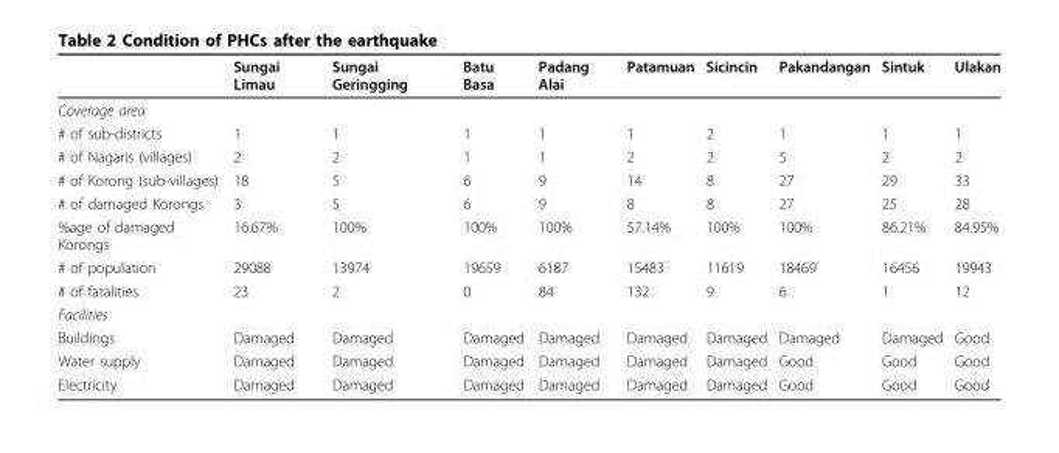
<table><thead><tr><td></td><td>Sungai Limau</td><td>Sungai Geringging</td><td>Batu Basa</td><td>Padang Alai</td><td>Patamuan</td><td>Sicincin</td><td>Pakandangan</td><td>Sintuk</td><td>Ulakan</td></tr></thead><tbody><tr><td colspan="10">Coverage area</td></tr><tr><td># of sub-districts</td><td>1</td><td>1</td><td>1</td><td>1</td><td>1</td><td>2</td><td>1</td><td>1</td><td>1</td></tr><tr><td># of Nagaris (villages)</td><td>2</td><td>2</td><td>1</td><td>1</td><td>2</td><td>2</td><td>5</td><td>2</td><td>2</td></tr><tr><td># of Korong (sub-villages)</td><td>18</td><td>5</td><td>6</td><td>9</td><td>14</td><td>8</td><td>27</td><td>29</td><td>33</td></tr><tr><td># of damaged Korongs</td><td>3</td><td>5</td><td>6</td><td>9</td><td>8</td><td>8</td><td>27</td><td>25</td><td>28</td></tr><tr><td>%age of damaged Korongs</td><td>16.67%</td><td>100%</td><td>100%</td><td>100%</td><td>57.14%</td><td>100%</td><td>100%</td><td>86.21%</td><td>84.95%</td></tr><tr><td># of population</td><td>29088</td><td>13974</td><td>19659</td><td>6187</td><td>15483</td><td>11619</td><td>18469</td><td>16456</td><td>19943</td></tr><tr><td># of fatalities</td><td>23</td><td>2</td><td>0</td><td>84</td><td>132</td><td>9</td><td>6</td><td>1</td><td>12</td></tr><tr><td colspan="10">Facilities</td></tr><tr><td>Buildings</td><td>Damaged</td><td>Damaged</td><td>Damaged</td><td>Damaged</td><td>Damaged</td><td>Damaged</td><td>Damaged</td><td>Damaged</td><td>Good</td></tr><tr><td>Water supply</td><td>Damaged</td><td>Damaged</td><td>Damaged</td><td>Damaged</td><td>Damaged</td><td>Damaged</td><td>Good</td><td>Good</td><td>Good</td></tr><tr><td>Electricity</td><td>Damaged</td><td>Damaged</td><td>Damaged</td><td>Damaged</td><td>Damaged</td><td>Damaged</td><td>Good</td><td>Good</td><td>Good</td></tr></tbody></table>